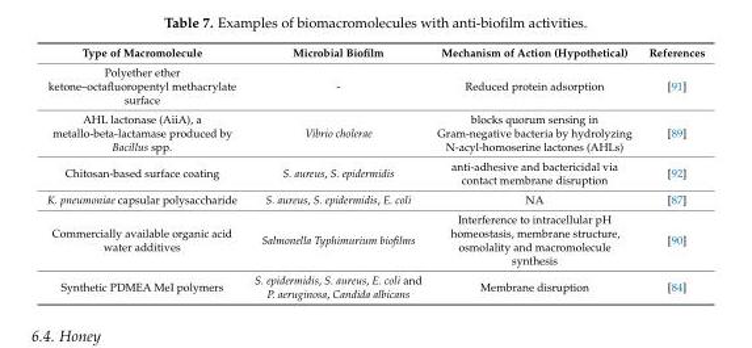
<table><thead><tr><td>Type of Macromolecule</td><td>Microbial Biofilm</td><td>Mechanism of Action (Hypothetical)</td><td>References</td></tr></thead><tbody><tr><td>Polyether ether ketone–octafluoropentyl methacrylate surface</td><td>-</td><td>Reduced protein adsorption</td><td>[91]</td></tr><tr><td>AHL lactonase (AiiA), a metallo-beta-lactamase produced by Bacillus spp.</td><td>Vibrio cholerae</td><td>blocks quorum sensing in Gram-negative bacteria by hydrolyzing N-acyl-homoserine lactones (AHLs)</td><td>[89]</td></tr><tr><td>Chitosan-based surface coating</td><td>S. aureus, S. epidermidis</td><td>anti-adhesive and bactericidal via contact membrane disruption</td><td>[92]</td></tr><tr><td>K. pneumoniae capsular polysaccharide</td><td>S. aureus, S. epidermidis, E. coli</td><td>NA</td><td>[87]</td></tr><tr><td>Commercially available organic acid water additives</td><td>Salmonella Typhimurium biofilms</td><td>Interference to intracellular pH homeostasis, membrane structure, osmolality and macromolecule synthesis</td><td>[90]</td></tr><tr><td>Synthetic PDMEA MeI polymers</td><td>S. epidermidis, S. aureus, E. coli and P. aeruginosa, Candida albicans</td><td>Membrane disruption</td><td>[84]</td></tr></tbody></table>